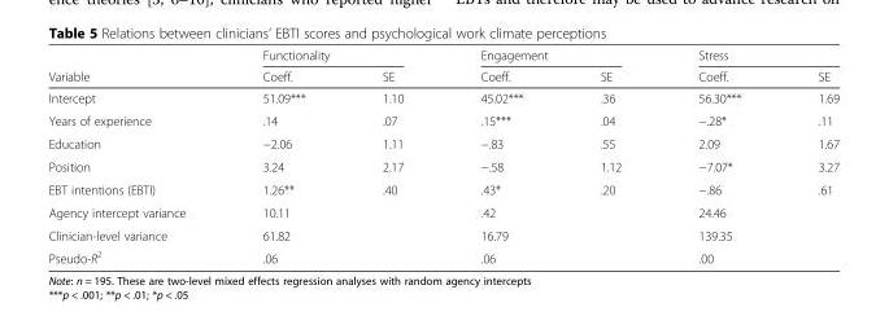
<table><thead><tr><td rowspan="2">Variable</td><td colspan="2">Functionality</td><td colspan="2">Engagement</td><td colspan="2">Stress</td></tr><tr><td>Coeff.</td><td>SE</td><td>Coeff.</td><td>SE</td><td>Coeff.</td><td>SE</td></tr></thead><tbody><tr><td>Intercept</td><td>51.09***</td><td>1.10</td><td>45.02***</td><td>.36</td><td>56.30***</td><td>1.69</td></tr><tr><td>Years of experience</td><td>.14</td><td>.07</td><td>.15***</td><td>.04</td><td>−.28*</td><td>.11</td></tr><tr><td>Education</td><td>−2.06</td><td>1.11</td><td>−.83</td><td>.55</td><td>2.09</td><td>1.67</td></tr><tr><td>Position</td><td>3.24</td><td>2.17</td><td>−.58</td><td>1.12</td><td>−7.07*</td><td>3.27</td></tr><tr><td>EBT intentions (EBTI)</td><td>1.26**</td><td>.40</td><td>.43*</td><td>.20</td><td>−.86</td><td>.61</td></tr><tr><td>Agency intercept variance</td><td>10.11</td><td></td><td>.42</td><td></td><td>24.46</td><td></td></tr><tr><td>Clinician-level variance</td><td>61.82</td><td></td><td>16.79</td><td></td><td>139.35</td><td></td></tr><tr><td>Pseudo-R<sup>2</sup></td><td>.06</td><td></td><td>.06</td><td></td><td>.00</td><td></td></tr></tbody></table>